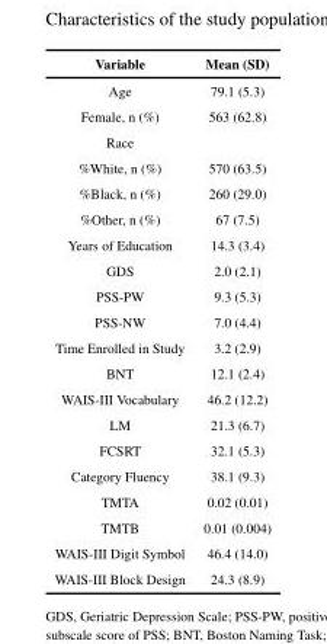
<table><thead><tr><td>Variable</td><td>Mean (SD)</td></tr></thead><tbody><tr><td>Age</td><td>79.1 (5.3)</td></tr><tr><td>Female, n (%)</td><td>563 (62.8)</td></tr><tr><td colspan="2">Race</td></tr><tr><td>%White, n (%)</td><td>570 (63.5)</td></tr><tr><td>%Black, n (%)</td><td>260 (29.0)</td></tr><tr><td>%Other, n (%)</td><td>67 (7.5)</td></tr><tr><td>Years of Education</td><td>14.3 (3.4)</td></tr><tr><td>GDS</td><td>2.0 (2.1)</td></tr><tr><td>PSS-PW</td><td>9.3 (5.3)</td></tr><tr><td>PSS-NW</td><td>7.0 (4.4)</td></tr><tr><td>Time Enrolled in Study</td><td>3.2 (2.9)</td></tr><tr><td>BNT</td><td>12.1 (2.4)</td></tr><tr><td>WAIS-III Vocabulary</td><td>46.2 (12.2)</td></tr><tr><td>LM</td><td>21.3 (6.7)</td></tr><tr><td>FCSRT</td><td>32.1 (5.3)</td></tr><tr><td>Category Fluency</td><td>38.1 (9.3)</td></tr><tr><td>TMTA</td><td>0.02 (0.01)</td></tr><tr><td>TMTB</td><td>0.01 (0.004)</td></tr><tr><td>WAIS-III Digit Symbol</td><td>46.4 (14.0)</td></tr><tr><td>WAIS-III Block Design</td><td>24.3 (8.9)</td></tr></tbody></table>